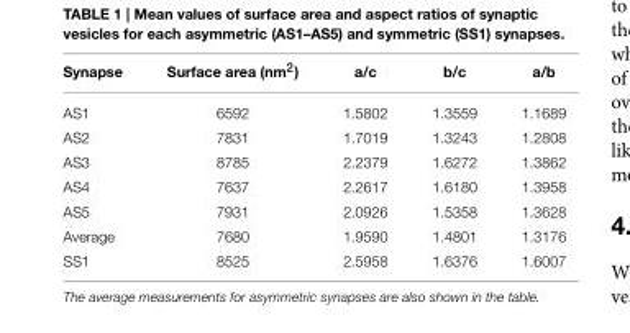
<table><thead><tr><td>Synapse</td><td>Surface area (nm<sup>2</sup>)</td><td>a/c</td><td>b/c</td><td>a/b</td></tr></thead><tbody><tr><td>AS1</td><td>6592</td><td>1.5802</td><td>1.3559</td><td>1.1689</td></tr><tr><td>AS2</td><td>7831</td><td>1.7019</td><td>1.3243</td><td>1.2808</td></tr><tr><td>AS3</td><td>8785</td><td>2.2379</td><td>1.6272</td><td>1.3862</td></tr><tr><td>AS4</td><td>7637</td><td>2.2617</td><td>1.6180</td><td>1.3958</td></tr><tr><td>AS5</td><td>7931</td><td>2.0926</td><td>1.5358</td><td>1.3628</td></tr><tr><td>Average</td><td>7680</td><td>1.9590</td><td>1.4801</td><td>1.3176</td></tr><tr><td>SS1</td><td>8525</td><td>2.5958</td><td>1.6376</td><td>1.6007</td></tr></tbody></table>